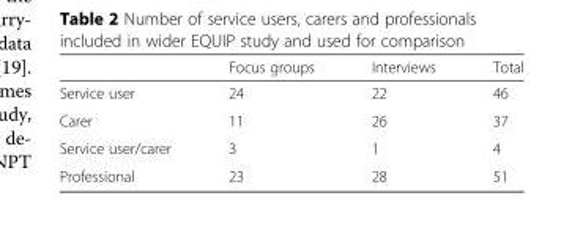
<table><thead><tr><td></td><td>Focus groups</td><td>Interviews</td><td>Total</td></tr></thead><tbody><tr><td>Service user</td><td>24</td><td>22</td><td>46</td></tr><tr><td>Carer</td><td>11</td><td>26</td><td>37</td></tr><tr><td>Service user/carer</td><td>3</td><td>1</td><td>4</td></tr><tr><td>Professional</td><td>23</td><td>28</td><td>51</td></tr></tbody></table>